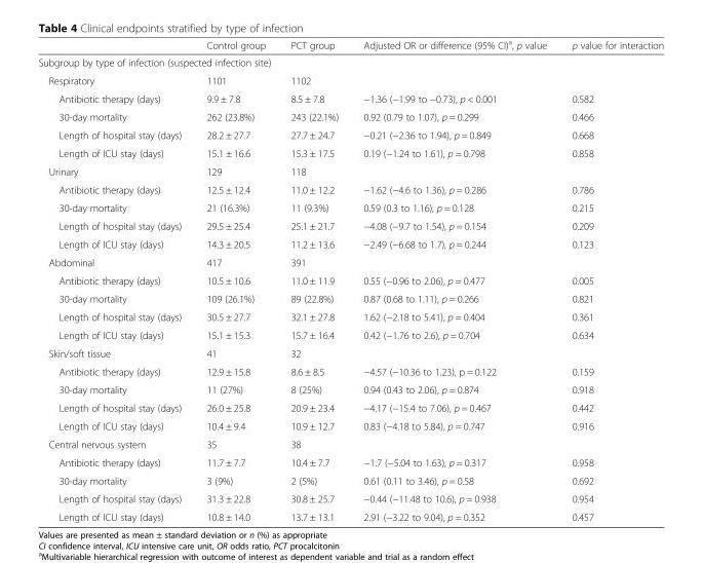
<table><thead><tr><td></td><td>Control group</td><td>PCT group</td><td>Adjusted OR or difference (95% CI)<sup>a</sup>, p value</td><td>p value for interaction</td></tr></thead><tbody><tr><td colspan="5">Subgroup by type of infection (suspected infection site)</td></tr><tr><td>Respiratory</td><td>1101</td><td>1102</td><td></td><td></td></tr><tr><td>Antibiotic therapy (days)</td><td>9.9 ± 7.8</td><td>8.5 ± 7.8</td><td>−1.36 (−1.99 to −0.73), p &lt; 0.001</td><td>0.582</td></tr><tr><td>30-day mortality</td><td>262 (23.8%)</td><td>243 (22.1%)</td><td>0.92 (0.79 to 1.07), p = 0.299</td><td>0.466</td></tr><tr><td>Length of hospital stay (days)</td><td>28.2 ± 27.7</td><td>27.7 ± 24.7</td><td>−0.21 (−2.36 to 1.94), p = 0.849</td><td>0.668</td></tr><tr><td>Length of ICU stay (days)</td><td>15.1 ± 16.6</td><td>15.3 ± 17.5</td><td>0.19 (−1.24 to 1.61), p = 0.798</td><td>0.858</td></tr><tr><td>Urinary</td><td>129</td><td>118</td><td></td><td></td></tr><tr><td>Antibiotic therapy (days)</td><td>12.5 ± 12.4</td><td>11.0 ± 12.2</td><td>−1.62 (−4.6 to 1.36), p = 0.286</td><td>0.786</td></tr><tr><td>30-day mortality</td><td>21 (16.3%)</td><td>11 (9.3%)</td><td>0.59 (0.3 to 1.16), p = 0.128</td><td>0.215</td></tr><tr><td>Length of hospital stay (days)</td><td>29.5 ± 25.4</td><td>25.1 ± 21.7</td><td>−4.08 (−9.7 to 1.54), p = 0.154</td><td>0.209</td></tr><tr><td>Length of ICU stay (days)</td><td>14.3 ± 20.5</td><td>11.2 ± 13.6</td><td>−2.49 (−6.68 to 1.7), p = 0.244</td><td>0.123</td></tr><tr><td>Abdominal</td><td>417</td><td>391</td><td></td><td></td></tr><tr><td>Antibiotic therapy (days)</td><td>10.5 ± 10.6</td><td>11.0 ± 11.9</td><td>0.55 (−0.96 to 2.06), p = 0.477</td><td>0.005</td></tr><tr><td>30-day mortality</td><td>109 (26.1%)</td><td>89 (22.8%)</td><td>0.87 (0.68 to 1.11), p = 0.266</td><td>0.821</td></tr><tr><td>Length of hospital stay (days)</td><td>30.5 ± 27.7</td><td>32.1 ± 27.8</td><td>1.62 (−2.18 to 5.41), p = 0.404</td><td>0.361</td></tr><tr><td>Length of ICU stay (days)</td><td>15.1 ± 15.3</td><td>15.7 ± 16.4</td><td>0.42 (−1.76 to 2.6), p = 0.704</td><td>0.634</td></tr><tr><td>Skin/soft tissue</td><td>41</td><td>32</td><td></td><td></td></tr><tr><td>Antibiotic therapy (days)</td><td>12.9 ± 15.8</td><td>8.6 ± 8.5</td><td>−4.57 (−10.36 to 1.23), p = 0.122</td><td>0.159</td></tr><tr><td>30-day mortality</td><td>11 (27%)</td><td>8 (25%)</td><td>0.94 (0.43 to 2.06), p = 0.874</td><td>0.918</td></tr><tr><td>Length of hospital stay (days)</td><td>26.0 ± 25.8</td><td>20.9 ± 23.4</td><td>−4.17 (−15.4 to 7.06), p = 0.467</td><td>0.442</td></tr><tr><td>Length of ICU stay (days)</td><td>10.4 ± 9.4</td><td>10.9 ± 12.7</td><td>0.83 (−4.18 to 5.84), p = 0.747</td><td>0.916</td></tr><tr><td>Central nervous system</td><td>35</td><td>38</td><td></td><td></td></tr><tr><td>Antibiotic therapy (days)</td><td>11.7 ± 7.7</td><td>10.4 ± 7.7</td><td>−1.7 (−5.04 to 1.63), p = 0.317</td><td>0.958</td></tr><tr><td>30-day mortality</td><td>3 (9%)</td><td>2 (5%)</td><td>0.61 (0.11 to 3.46), p = 0.58</td><td>0.692</td></tr><tr><td>Length of hospital stay (days)</td><td>31.3 ± 22.8</td><td>30.8 ± 25.7</td><td>−0.44 (−11.48 to 10.6), p = 0.938</td><td>0.954</td></tr><tr><td>Length of ICU stay (days)</td><td>10.8 ± 14.0</td><td>13.7 ± 13.1</td><td>2.91 (−3.22 to 9.04), p = 0.352</td><td>0.457</td></tr></tbody></table>